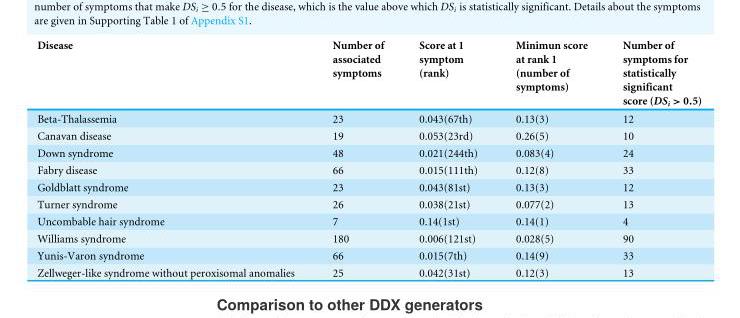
<table><thead><tr><td>Disease</td><td>Number of associated symptoms</td><td>Score at 1 symptom (rank)</td><td>Minimun score at rank 1 (number of symptoms)</td><td>Number of symptoms for statistically significant score (DS<sub>i</sub> &gt; 0.5)</td></tr></thead><tbody><tr><td>Beta-Thalassemia</td><td>23</td><td>0.043(67th)</td><td>0.13(3)</td><td>12</td></tr><tr><td>Canavan disease</td><td>19</td><td>0.053(23rd)</td><td>0.26(5)</td><td>10</td></tr><tr><td>Down syndrome</td><td>48</td><td>0.021(244th)</td><td>0.083(4)</td><td>24</td></tr><tr><td>Fabry disease</td><td>66</td><td>0.015(111th)</td><td>0.12(8)</td><td>33</td></tr><tr><td>Goldblatt syndrome</td><td>23</td><td>0.043(81st)</td><td>0.13(3)</td><td>12</td></tr><tr><td>Turner syndrome</td><td>26</td><td>0.038(21st)</td><td>0.077(2)</td><td>13</td></tr><tr><td>Uncombable hair syndrome</td><td>7</td><td>0.14(1st)</td><td>0.14(1)</td><td>4</td></tr><tr><td>Williams syndrome</td><td>180</td><td>0.006(121st)</td><td>0.028(5)</td><td>90</td></tr><tr><td>Yunis-Varon syndrome</td><td>66</td><td>0.015(7th)</td><td>0.14(9)</td><td>33</td></tr><tr><td>Zellweger-like syndrome without peroxisomal anomalies</td><td>25</td><td>0.042(31st)</td><td>0.12(3)</td><td>13</td></tr></tbody></table>